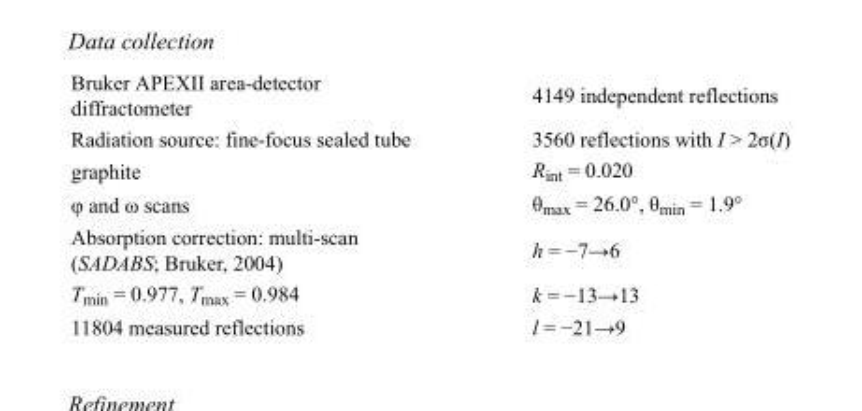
<table><tbody><tr><td>Bruker APEXII area-detector diffractometer</td><td>4149 independent reflections</td></tr><tr><td>Radiation source: fine-focus sealed tube</td><td>3560 reflections with I &gt; 2σ(I)</td></tr><tr><td>graphite</td><td>R<sub>int</sub> = 0.020</td></tr><tr><td>φ and ω scans</td><td>θ<sub>max</sub> = 26.0°, θ<sub>min</sub> = 1.9°</td></tr><tr><td>Absorption correction: multi-scan (SADABS; Bruker, 2004)</td><td>h = −7→6</td></tr><tr><td>T<sub>min</sub> = 0.977, T<sub>max</sub> = 0.984</td><td>k = −13→13</td></tr><tr><td>11804 measured reflections</td><td>l = −21→9</td></tr></tbody></table>